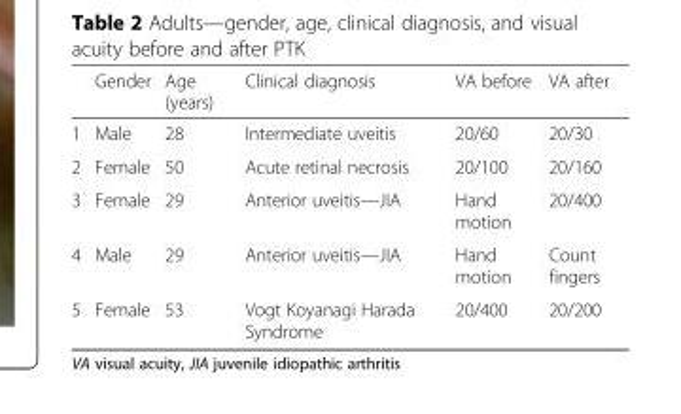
<table><thead><tr><td></td><td>Gender</td><td>Age (years)</td><td>Clinical diagnosis</td><td>VA before</td><td>VA after</td></tr></thead><tbody><tr><td>1</td><td>Male</td><td>28</td><td>Intermediate uveitis</td><td>20/60</td><td>20/30</td></tr><tr><td>2</td><td>Female</td><td>50</td><td>Acute retinal necrosis</td><td>20/100</td><td>20/160</td></tr><tr><td>3</td><td>Female</td><td>29</td><td>Anterior uveitis—JIA</td><td>Hand motion</td><td>20/400</td></tr><tr><td>4</td><td>Male</td><td>29</td><td>Anterior uveitis—JIA</td><td>Hand motion</td><td>Count fingers</td></tr><tr><td>5</td><td>Female</td><td>53</td><td>Vogt Koyanagi Harada Syndrome</td><td>20/400</td><td>20/200</td></tr></tbody></table>